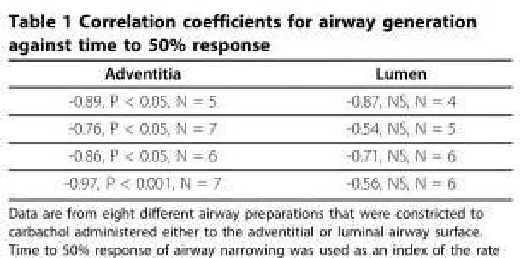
<table><thead><tr><td>Adventitia</td><td>Lumen</td></tr></thead><tbody><tr><td>-0.89, P &lt; 0.05, N = 5</td><td>-0.87, NS, N = 4</td></tr><tr><td>-0.76, P &lt; 0.05, N = 7</td><td>-0.54, NS, N = 5</td></tr><tr><td>-0.86, P &lt; 0.05, N = 6</td><td>-0.71, NS, N = 6</td></tr><tr><td>-0.97, P &lt; 0.001, N = 7</td><td>-0.56, NS, N = 6</td></tr></tbody></table>